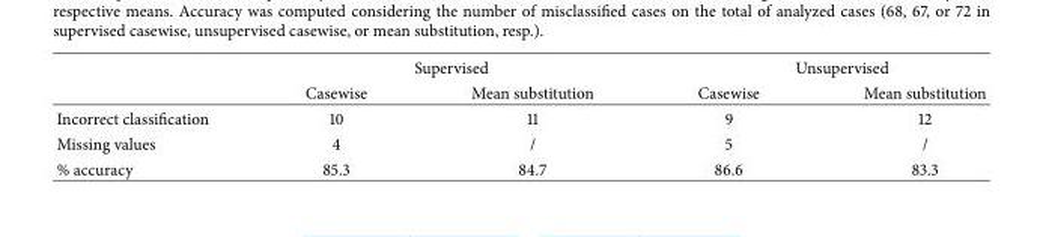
<table><thead><tr><td rowspan="2"></td><td colspan="2">Supervised</td><td colspan="2">Unsupervised</td></tr><tr><td>Casewise</td><td>Mean substitution</td><td>Casewise</td><td>Mean substitution</td></tr></thead><tbody><tr><td>Incorrect classification</td><td>10</td><td>11</td><td>9</td><td>12</td></tr><tr><td>Missing values</td><td>4</td><td>/</td><td>5</td><td>/</td></tr><tr><td>% accuracy</td><td>85.3</td><td>84.7</td><td>86.6</td><td>83.3</td></tr></tbody></table>